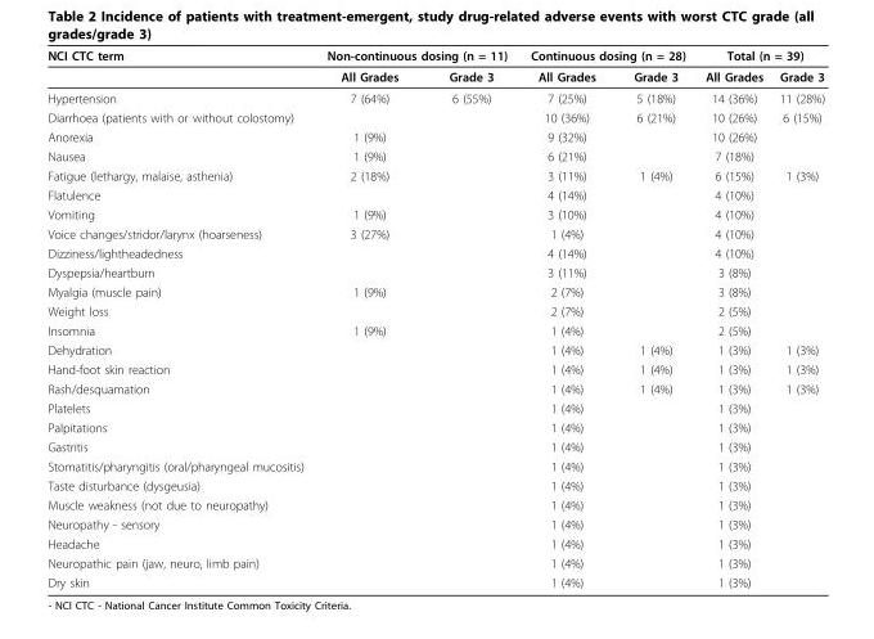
<table><thead><tr><td rowspan="2">NCI CTC term</td><td colspan="2">Non-continuous dosing (n = 11)</td><td colspan="2">Continuous dosing (n = 28)</td><td colspan="2">Total (n = 39)</td></tr><tr><td>All Grades</td><td>Grade 3</td><td>All Grades</td><td>Grade 3</td><td>All Grades</td><td>Grade 3</td></tr></thead><tbody><tr><td>Hypertension</td><td>7 (64%)</td><td>6 (55%)</td><td>7 (25%)</td><td>5 (18%)</td><td>14 (36%)</td><td>11 (28%)</td></tr><tr><td>Diarrhoea (patients with or without colostomy)</td><td></td><td></td><td>10 (36%)</td><td>6 (21%)</td><td>10 (26%)</td><td>6 (15%)</td></tr><tr><td>Anorexia</td><td>1 (9%)</td><td></td><td>9 (32%)</td><td></td><td>10 (26%)</td><td></td></tr><tr><td>Nausea</td><td>1 (9%)</td><td></td><td>6 (21%)</td><td></td><td>7 (18%)</td><td></td></tr><tr><td>Fatigue (lethargy, malaise, asthenia)</td><td>2 (18%)</td><td></td><td>3 (11%)</td><td>1 (4%)</td><td>6 (15%)</td><td>1 (3%)</td></tr><tr><td>Flatulence</td><td></td><td></td><td>4 (14%)</td><td></td><td>4 (10%)</td><td></td></tr><tr><td>Vomiting</td><td>1 (9%)</td><td></td><td>3 (10%)</td><td></td><td>4 (10%)</td><td></td></tr><tr><td>Voice changes/stridor/larynx (hoarseness)</td><td>3 (27%)</td><td></td><td>1 (4%)</td><td></td><td>4 (10%)</td><td></td></tr><tr><td>Dizziness/lightheadedness</td><td></td><td></td><td>4 (14%)</td><td></td><td>4 (10%)</td><td></td></tr><tr><td>Dyspepsia/heartburn</td><td></td><td></td><td>3 (11%)</td><td></td><td>3 (8%)</td><td></td></tr><tr><td>Myalgia (muscle pain)</td><td>1 (9%)</td><td></td><td>2 (7%)</td><td></td><td>3 (8%)</td><td></td></tr><tr><td>Weight loss</td><td></td><td></td><td>2 (7%)</td><td></td><td>2 (5%)</td><td></td></tr><tr><td>Insomnia</td><td>1 (9%)</td><td></td><td>1 (4%)</td><td></td><td>2 (5%)</td><td></td></tr><tr><td>Dehydration</td><td></td><td></td><td>1 (4%)</td><td>1 (4%)</td><td>1 (3%)</td><td>1 (3%)</td></tr><tr><td>Hand-foot skin reaction</td><td></td><td></td><td>1 (4%)</td><td>1 (4%)</td><td>1 (3%)</td><td>1 (3%)</td></tr><tr><td>Rash/desquamation</td><td></td><td></td><td>1 (4%)</td><td>1 (4%)</td><td>1 (3%)</td><td>1 (3%)</td></tr><tr><td>Platelets</td><td></td><td></td><td>1 (4%)</td><td></td><td>1 (3%)</td><td></td></tr><tr><td>Palpitations</td><td></td><td></td><td>1 (4%)</td><td></td><td>1 (3%)</td><td></td></tr><tr><td>Gastritis</td><td></td><td></td><td>1 (4%)</td><td></td><td>1 (3%)</td><td></td></tr><tr><td>Stomatitis/pharyngitis (oral/pharyngeal mucositis)</td><td></td><td></td><td>1 (4%)</td><td></td><td>1 (3%)</td><td></td></tr><tr><td>Taste disturbance (dysgeusia)</td><td></td><td></td><td>1 (4%)</td><td></td><td>1 (3%)</td><td></td></tr><tr><td>Muscle weakness (not due to neuropathy)</td><td></td><td></td><td>1 (4%)</td><td></td><td>1 (3%)</td><td></td></tr><tr><td>Neuropathy - sensory</td><td></td><td></td><td>1 (4%)</td><td></td><td>1 (3%)</td><td></td></tr><tr><td>Headache</td><td></td><td></td><td>1 (4%)</td><td></td><td>1 (3%)</td><td></td></tr><tr><td>Neuropathic pain (jaw, neuro, limb pain)</td><td></td><td></td><td>1 (4%)</td><td></td><td>1 (3%)</td><td></td></tr><tr><td>Dry skin</td><td></td><td></td><td>1 (4%)</td><td></td><td>1 (3%)</td><td></td></tr></tbody></table>